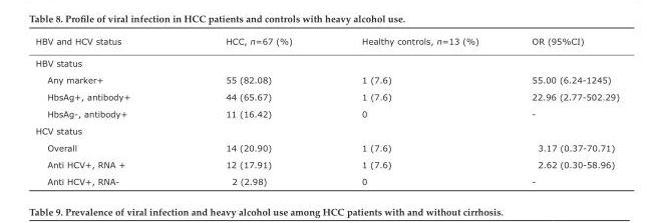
<table><thead><tr><td>HBV and HCV status</td><td>HCC, n=67 (%)</td><td>Healthy controls, n=13 (%)</td><td>OR (95%CI)</td></tr></thead><tbody><tr><td colspan="4">HBV status</td></tr><tr><td>Any marker+</td><td>55 (82.08)</td><td>1 (7.6)</td><td>55.00 (6.24-1245)</td></tr><tr><td>HbsAg+, antibody+</td><td>44 (65.67)</td><td>1 (7.6)</td><td>22.96 (2.77-502.29)</td></tr><tr><td>HbsAg-, antibody+</td><td>11 (16.42)</td><td>0</td><td>-</td></tr><tr><td colspan="4">HCV status</td></tr><tr><td>Overall</td><td>14 (20.90)</td><td>1 (7.6)</td><td>3.17 (0.37-70.71)</td></tr><tr><td>Anti HCV+, RNA +</td><td>12 (17.91)</td><td>1 (7.6)</td><td>2.62 (0.30-58.96)</td></tr><tr><td>Anti HCV+, RNA-</td><td>2 (2.98)</td><td>0</td><td>-</td></tr></tbody></table>